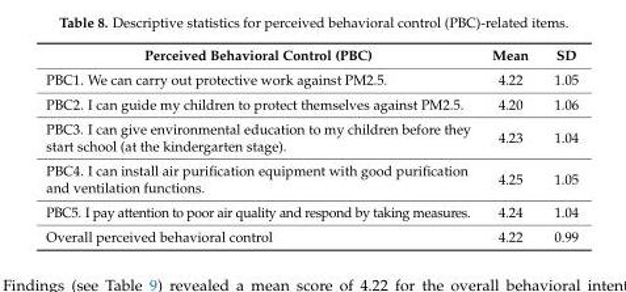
<table><thead><tr><td>Perceived Behavioral Control (PBC)</td><td>Mean</td><td>SD</td></tr></thead><tbody><tr><td>PBC1. We can carry out protective work against PM2.5.</td><td>4.22</td><td>1.05</td></tr><tr><td>PBC2. I can guide my children to protect themselves against PM2.5.</td><td>4.20</td><td>1.06</td></tr><tr><td>PBC3. I can give environmental education to my children before they start school (at the kindergarten stage).</td><td>4.23</td><td>1.04</td></tr><tr><td>PBC4. I can install air purification equipment with good purification and ventilation functions.</td><td>4.25</td><td>1.05</td></tr><tr><td>PBC5. I pay attention to poor air quality and respond by taking measures.</td><td>4.24</td><td>1.04</td></tr><tr><td>Overall perceived behavioral control</td><td>4.22</td><td>0.99</td></tr></tbody></table>